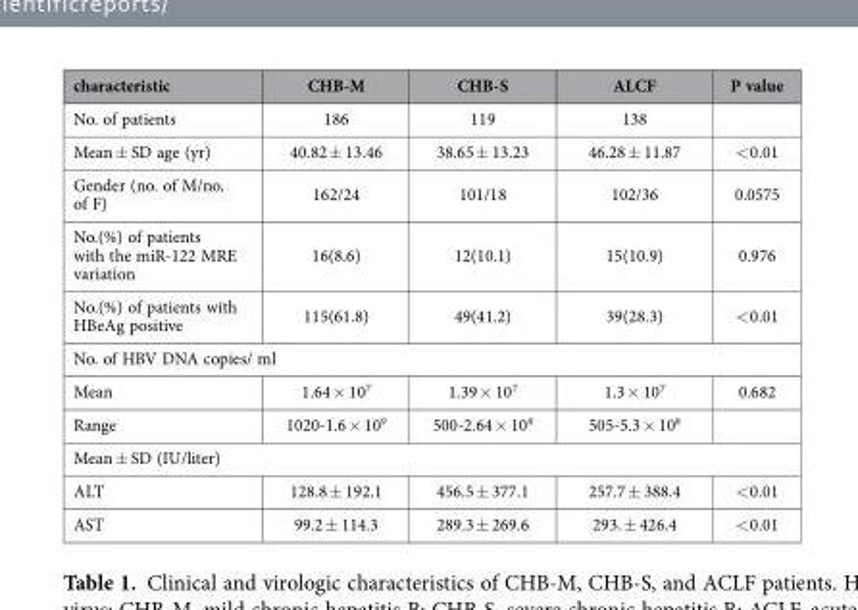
<table><thead><tr><td>characteristic</td><td>CHB-M</td><td>CHB-S</td><td>ALCF</td><td>P value</td></tr></thead><tbody><tr><td>No. of patients</td><td>186</td><td>119</td><td>138</td><td></td></tr><tr><td>Mean ± SD age (yr)</td><td>40.82 ± 13.46</td><td>38.65 ± 13.23</td><td>46.28 ± 11.87</td><td>&lt; 0.01</td></tr><tr><td>Gender (no. of M/no. of F)</td><td>162/24</td><td>101/18</td><td>102/36</td><td>0.0575</td></tr><tr><td>No.(%) of patients with the miR-122 MRE variation</td><td>16(8.6)</td><td>12(10.1)</td><td>15(10.9)</td><td>0.976</td></tr><tr><td>No.(%) of patients with HBeAg positive</td><td>115(61.8)</td><td>49(41.2)</td><td>39(28.3)</td><td>&lt; 0.01</td></tr><tr><td colspan="5">No. of HBV DNA copies/ ml</td></tr><tr><td>Mean</td><td>1.64 × 10<sup>7</sup></td><td>1.39 × 10<sup>7</sup></td><td>1.3 × 10<sup>7</sup></td><td>0.682</td></tr><tr><td>Range</td><td>1020-1.6 × 10<sup>9</sup></td><td>500-2.64 × 10<sup>8</sup></td><td>505-5.3 × 10<sup>8</sup></td><td></td></tr><tr><td colspan="5">Mean ± SD (IU/liter)</td></tr><tr><td>ALT</td><td>128.8 ± 192.1</td><td>456.5 ± 377.1</td><td>257.7 ± 388.4</td><td>&lt; 0.01</td></tr><tr><td>AST</td><td>99.2 ± 114.3</td><td>289.3 ± 269.6</td><td>293. ± 426.4</td><td>&lt; 0.01</td></tr></tbody></table>